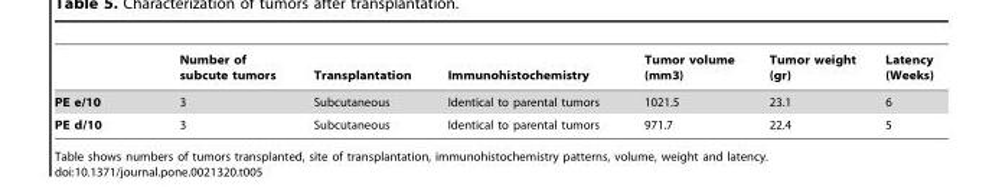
<table><thead><tr><td></td><td>Number of subcute tumors</td><td>Transplantation</td><td>Immunohistochemistry</td><td>Tumor volume (mm3)</td><td>Tumor weight (gr)</td><td>Latency (Weeks)</td></tr></thead><tbody><tr><td>PE e/10</td><td>3</td><td>Subcutaneous</td><td>Identical to parental tumors</td><td>1021.5</td><td>23.1</td><td>6</td></tr><tr><td>PE d/10</td><td>3</td><td>Subcutaneous</td><td>Identical to parental tumors</td><td>971.7</td><td>22.4</td><td>5</td></tr></tbody></table>